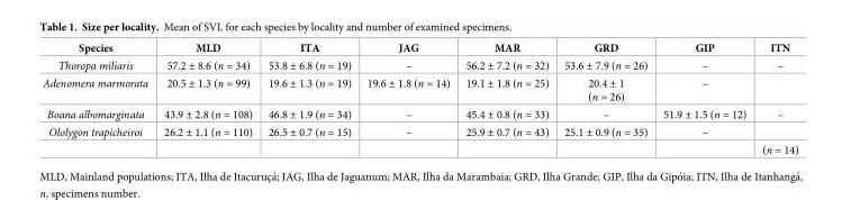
<table><thead><tr><td>Species</td><td>MLD</td><td>ITA</td><td>JAG</td><td>MAR</td><td>GRD</td><td>GIP</td><td>ITN</td></tr></thead><tbody><tr><td>Thoropa miliaris</td><td>57.2 ± 8.6 (n = 34)</td><td>53.8 ± 6.8 (n = 19)</td><td>–</td><td>56.2 ± 7.2 (n = 32)</td><td>53.6 ± 7.9 (n = 26)</td><td>–</td><td>–</td></tr><tr><td>Adenomera marmorata</td><td>20.5 ± 1.3 (n = 99)</td><td>19.6 ± 1.3 (n = 19)</td><td>19.6 ± 1.8 (n = 14)</td><td>19.1 ± 1.8 (n = 25)</td><td>20.4 ± 1 (n = 26)</td><td>–</td><td></td></tr><tr><td>Boana albomarginata</td><td>43.9 ± 2.8 (n = 108)</td><td>46.8 ± 1.9 (n = 34)</td><td>–</td><td>45.4 ± 0.8 (n = 33)</td><td>–</td><td>51.9 ± 1.5 (n = 12)</td><td>–</td></tr><tr><td rowspan="2">Ololygon trapicheiroi</td><td>26.2 ± 1.1 (n = 110)</td><td>26.5 ± 0.7 (n = 15)</td><td>–</td><td>25.9 ± 0.7 (n = 43)</td><td>25.1 ± 0.9 (n = 35)</td><td>–</td><td></td></tr><tr><td></td><td></td><td></td><td></td><td></td><td></td><td>(n = 14)</td></tr></tbody></table>